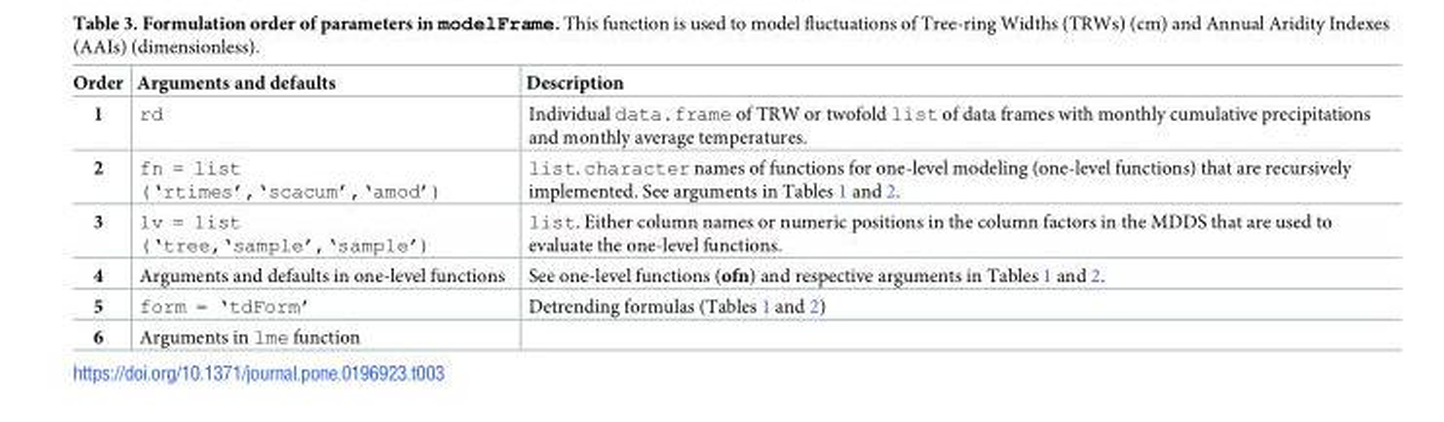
<table><thead><tr><td>Order</td><td>Arguments and defaults</td><td>Description</td></tr></thead><tbody><tr><td>1</td><td>rd</td><td>Individual data.frame of TRW or twofold list of data frames with monthly cumulative precipitations and monthly average temperatures.</td></tr><tr><td>2</td><td>fn = list (‘rtimes’,‘scacum’,‘amod’)</td><td>list. character names of functions for one-level modeling (one-level functions) that are recursively implemented. See arguments in Tables 1 and 2.</td></tr><tr><td>3</td><td>lv = list (‘tree,‘sample’,‘sample’)</td><td>list. Either column names or numeric positions in the column factors in the MDDS that are used to evaluate the one-level functions.</td></tr><tr><td>4</td><td>Arguments and defaults in one-level functions</td><td>See one-level functions (ofn) and respective arguments in Tables 1 and 2.</td></tr><tr><td>5</td><td>form = ‘tdForm’</td><td>Detrending formulas (Tables 1 and 2)</td></tr><tr><td>6</td><td>Arguments in lme function</td><td></td></tr></tbody></table>